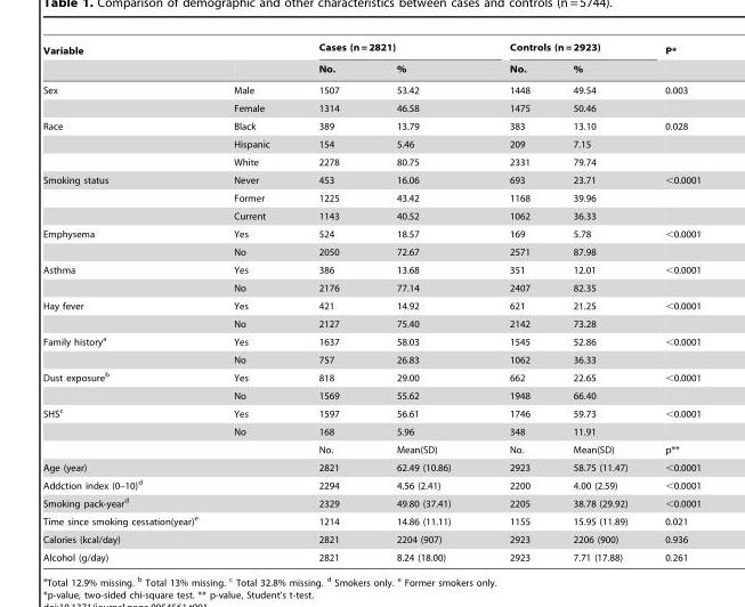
<table><thead><tr><td colspan="2">Variable</td><td colspan="2">Cases (n = 2821)</td><td colspan="2">Controls (n = 2923)</td><td rowspan="2">P*</td></tr><tr><td></td><td></td><td>No.</td><td>%</td><td>No.</td><td>%</td></tr></thead><tbody><tr><td rowspan="2">Sex</td><td>Male</td><td>1507</td><td>53.42</td><td>1448</td><td>49.54</td><td>0.003</td></tr><tr><td>Female</td><td>1314</td><td>46.58</td><td>1475</td><td>50.46</td><td></td></tr><tr><td rowspan="3">Race</td><td>Black</td><td>389</td><td>13.79</td><td>383</td><td>13.10</td><td>0.028</td></tr><tr><td>Hispanic</td><td>154</td><td>5.46</td><td>209</td><td>7.15</td><td></td></tr><tr><td>White</td><td>2278</td><td>80.75</td><td>2331</td><td>79.74</td><td></td></tr><tr><td rowspan="3">Smoking status</td><td>Never</td><td>453</td><td>16.06</td><td>693</td><td>23.71</td><td>&lt;0.0001</td></tr><tr><td>Former</td><td>1225</td><td>43.42</td><td>1168</td><td>39.96</td><td></td></tr><tr><td>Current</td><td>1143</td><td>40.52</td><td>1062</td><td>36.33</td><td></td></tr><tr><td rowspan="2">Emphysema</td><td>Yes</td><td>524</td><td>18.57</td><td>169</td><td>5.78</td><td>&lt;0.0001</td></tr><tr><td>No</td><td>2050</td><td>72.67</td><td>2571</td><td>87.98</td><td></td></tr><tr><td rowspan="2">Asthma</td><td>Yes</td><td>386</td><td>13.68</td><td>351</td><td>12.01</td><td>&lt;0.0001</td></tr><tr><td>No</td><td>2176</td><td>77.14</td><td>2407</td><td>82.35</td><td></td></tr><tr><td rowspan="2">Hay fever</td><td>Yes</td><td>421</td><td>14.92</td><td>621</td><td>21.25</td><td>&lt;0.0001</td></tr><tr><td>No</td><td>2127</td><td>75.40</td><td>2142</td><td>73.28</td><td></td></tr><tr><td rowspan="2">Family history<sup>a</sup></td><td>Yes</td><td>1637</td><td>58.03</td><td>1545</td><td>52.86</td><td>&lt;0.0001</td></tr><tr><td>No</td><td>757</td><td>26.83</td><td>1062</td><td>36.33</td><td></td></tr><tr><td rowspan="2">Dust exposure<sup>b</sup></td><td>Yes</td><td>818</td><td>29.00</td><td>662</td><td>22.65</td><td>&lt;0.0001</td></tr><tr><td>No</td><td>1569</td><td>55.62</td><td>1948</td><td>66.40</td><td></td></tr><tr><td rowspan="2">SHS<sup>c</sup></td><td>Yes</td><td>1597</td><td>56.61</td><td>1746</td><td>59.73</td><td>&lt;0.0001</td></tr><tr><td>No</td><td>168</td><td>5.96</td><td>348</td><td>11.91</td><td></td></tr><tr><td colspan="2"></td><td>No.</td><td>Mean(SD)</td><td>No.</td><td>Mean(SD)</td><td>p**</td></tr><tr><td colspan="2">Age (year)</td><td>2821</td><td>62.49 (10.86)</td><td>2923</td><td>58.75 (11.47)</td><td>&lt;0.0001</td></tr><tr><td colspan="2">Addction index (0–10)<sup>d</sup></td><td>2294</td><td>4.56 (2.41)</td><td>2200</td><td>4.00 (2.59)</td><td>&lt;0.0001</td></tr><tr><td colspan="2">Smoking pack-year<sup>d</sup></td><td>2329</td><td>49.80 (37.41)</td><td>2205</td><td>38.78 (29.92)</td><td>&lt;0.0001</td></tr><tr><td colspan="2">Time since smoking cessation(year)<sup>e</sup></td><td>1214</td><td>14.86 (11.11)</td><td>1155</td><td>15.95 (11.89)</td><td>0.021</td></tr><tr><td colspan="2">Calories (kcal/day)</td><td>2821</td><td>2204 (907)</td><td>2923</td><td>2206 (900)</td><td>0.936</td></tr><tr><td colspan="2">Alcohol (g/day)</td><td>2821</td><td>8.24 (18.00)</td><td>2923</td><td>7.71 (17.88)</td><td>0.261</td></tr></tbody></table>